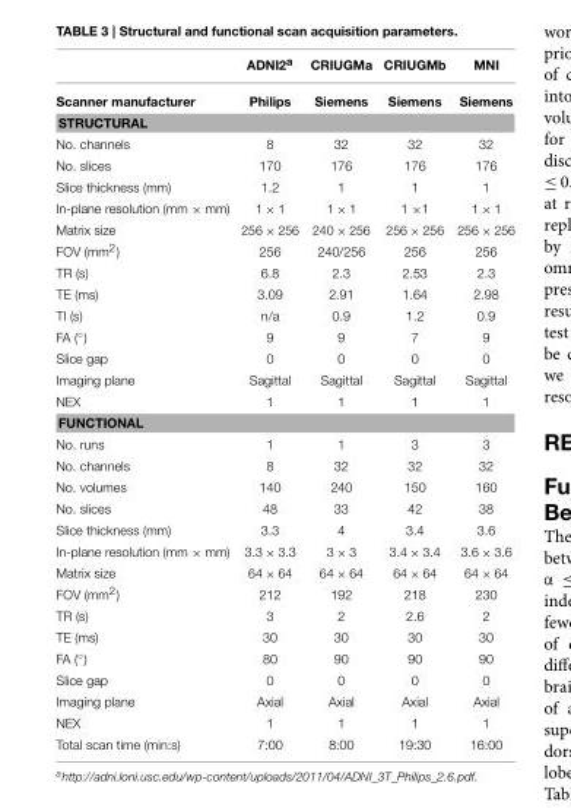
<table><thead><tr><td></td><td>ADNI2<sup>a</sup></td><td>CRIUGMa</td><td>CRIUGMb</td><td>MNI</td></tr></thead><tbody><tr><td>Scanner manufacturer</td><td>Philips</td><td>Siemens</td><td>Siemens</td><td>Siemens</td></tr><tr><td colspan="5">STRUCTURAL</td></tr><tr><td>No. channels</td><td>8</td><td>32</td><td>32</td><td>32</td></tr><tr><td>No. slices</td><td>170</td><td>176</td><td>176</td><td>176</td></tr><tr><td>Slice thickness (mm)</td><td>1.2</td><td>1</td><td>1</td><td>1</td></tr><tr><td>In-plane resolution (mm × mm)</td><td>1 × 1</td><td>1 × 1</td><td>1 ×1</td><td>1 × 1</td></tr><tr><td>Matrix size</td><td>256 × 256</td><td>240 × 256</td><td>256 × 256</td><td>256 × 256</td></tr><tr><td>FOV (mm<sup>2</sup>)</td><td>256</td><td>240/256</td><td>256</td><td>256</td></tr><tr><td>TR (s)</td><td>6.8</td><td>2.3</td><td>2.53</td><td>2.3</td></tr><tr><td>TE (ms)</td><td>3.09</td><td>2.91</td><td>1.64</td><td>2.98</td></tr><tr><td>TI (s)</td><td>n/a</td><td>0.9</td><td>1.2</td><td>0.9</td></tr><tr><td>FA (◦)</td><td>9</td><td>9</td><td>7</td><td>9</td></tr><tr><td>Slice gap</td><td>0</td><td>0</td><td>0</td><td>0</td></tr><tr><td>Imaging plane</td><td>Sagittal</td><td>Sagittal</td><td>Sagittal</td><td>Sagittal</td></tr><tr><td>NEX</td><td>1</td><td>1</td><td>1</td><td>1</td></tr><tr><td colspan="5">FUNCTIONAL</td></tr><tr><td>No. runs</td><td>1</td><td>1</td><td>3</td><td>3</td></tr><tr><td>No. channels</td><td>8</td><td>32</td><td>32</td><td>32</td></tr><tr><td>No. volumes</td><td>140</td><td>240</td><td>150</td><td>160</td></tr><tr><td>No. slices</td><td>48</td><td>33</td><td>42</td><td>38</td></tr><tr><td>Slice thickness (mm)</td><td>3.3</td><td>4</td><td>3.4</td><td>3.6</td></tr><tr><td>In-plane resolution (mm × mm)</td><td>3.3 × 3.3</td><td>3 × 3</td><td>3.4 × 3.4</td><td>3.6 × 3.6</td></tr><tr><td>Matrix size</td><td>64 × 64</td><td>64 × 64</td><td>64 × 64</td><td>64 × 64</td></tr><tr><td>FOV (mm<sup>2</sup>)</td><td>212</td><td>192</td><td>218</td><td>230</td></tr><tr><td>TR (s)</td><td>3</td><td>2</td><td>2.6</td><td>2</td></tr><tr><td>TE (ms)</td><td>30</td><td>30</td><td>30</td><td>30</td></tr><tr><td>FA (◦)</td><td>80</td><td>90</td><td>90</td><td>90</td></tr><tr><td>Slice gap</td><td>0</td><td>0</td><td>0</td><td>0</td></tr><tr><td>Imaging plane</td><td>Axial</td><td>Axial</td><td>Axial</td><td>Axial</td></tr><tr><td>NEX</td><td>1</td><td>1</td><td>1</td><td>1</td></tr><tr><td>Total scan time (min:s)</td><td>7:00</td><td>8:00</td><td>19:30</td><td>16:00</td></tr></tbody></table>